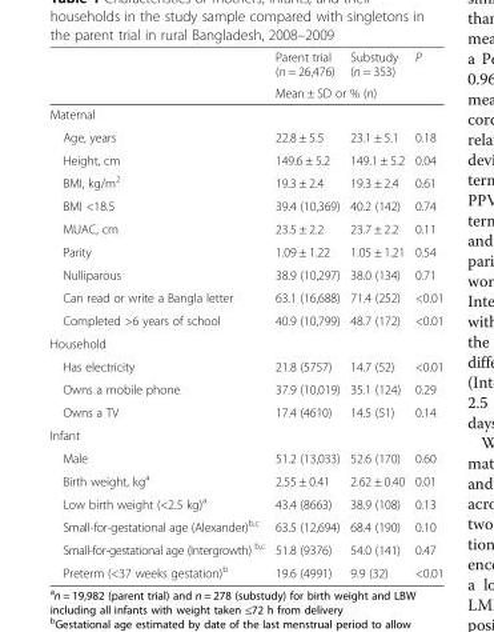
<table><thead><tr><td rowspan="2"></td><td>Parent trial (n = 26,476)</td><td>Substudy (n = 353)</td><td>P</td></tr><tr><td colspan="3">Mean ± SD or % (n)</td></tr></thead><tbody><tr><td colspan="4">Maternal</td></tr><tr><td>Age, years</td><td>22.8 ± 5.5</td><td>23.1 ± 5.1</td><td>0.18</td></tr><tr><td>Height, cm</td><td>149.6 ± 5.2</td><td>149.1 ± 5.2</td><td>0.04</td></tr><tr><td>BMI, kg/m<sup>2</sup></td><td>19.3 ± 2.4</td><td>19.3 ± 2.4</td><td>0.61</td></tr><tr><td>BMI &lt;18.5</td><td>39.4 (10,369)</td><td>40.2 (142)</td><td>0.74</td></tr><tr><td>MUAC, cm</td><td>23.5 ± 2.2</td><td>23.7 ± 2.2</td><td>0.11</td></tr><tr><td>Parity</td><td>1.09 ± 1.22</td><td>1.05 ± 1.21</td><td>0.54</td></tr><tr><td>Nulliparous</td><td>38.9 (10,297)</td><td>38.0 (134)</td><td>0.71</td></tr><tr><td>Can read or write a Bangla letter</td><td>63.1 (16,688)</td><td>71.4 (252)</td><td>&lt;0.01</td></tr><tr><td>Completed &gt;6 years of school</td><td>40.9 (10,799)</td><td>48.7 (172)</td><td>&lt;0.01</td></tr><tr><td colspan="4">Household</td></tr><tr><td>Has electricity</td><td>21.8 (5757)</td><td>14.7 (52)</td><td>&lt;0.01</td></tr><tr><td>Owns a mobile phone</td><td>37.9 (10,019)</td><td>35.1 (124)</td><td>0.29</td></tr><tr><td>Owns a TV</td><td>17.4 (4610)</td><td>14.5 (51)</td><td>0.14</td></tr><tr><td colspan="4">Infant</td></tr><tr><td>Male</td><td>51.2 (13,033)</td><td>52.6 (170)</td><td>0.60</td></tr><tr><td>Birth weight, kg<sup>a</sup></td><td>2.55 ± 0.41</td><td>2.62 ± 0.40</td><td>0.01</td></tr><tr><td>Low birth weight (&lt;2.5 kg)<sup>a</sup></td><td>43.4 (8663)</td><td>38.9 (108)</td><td>0.13</td></tr><tr><td>Small-for-gestational age (Alexander)<sup>b,c</sup></td><td>63.5 (12,694)</td><td>68.4 (190)</td><td>0.10</td></tr><tr><td>Small-for-gestational age (Intergrowth) <sup>b,c</sup></td><td>51.8 (9376)</td><td>54.0 (141)</td><td>0.47</td></tr><tr><td>Preterm (&lt;37 weeks gestation)<sup>b</sup></td><td>19.6 (4991)</td><td>9.9 (32)</td><td>&lt;0.01</td></tr></tbody></table>